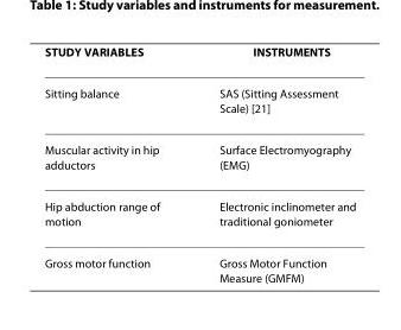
<table><thead><tr><td>STUDY VARIABLES</td><td>INSTRUMENTS</td></tr></thead><tbody><tr><td>Sitting balance</td><td>SAS (Sitting Assessment Scale) [21]</td></tr><tr><td>Muscular activity in hip adductors</td><td>Surface Electromyography (EMG)</td></tr><tr><td>Hip abduction range of motion</td><td>Electronic inclinometer and traditional goniometer</td></tr><tr><td>Gross motor function</td><td>Gross Motor Function Measure (GMFM)</td></tr></tbody></table>